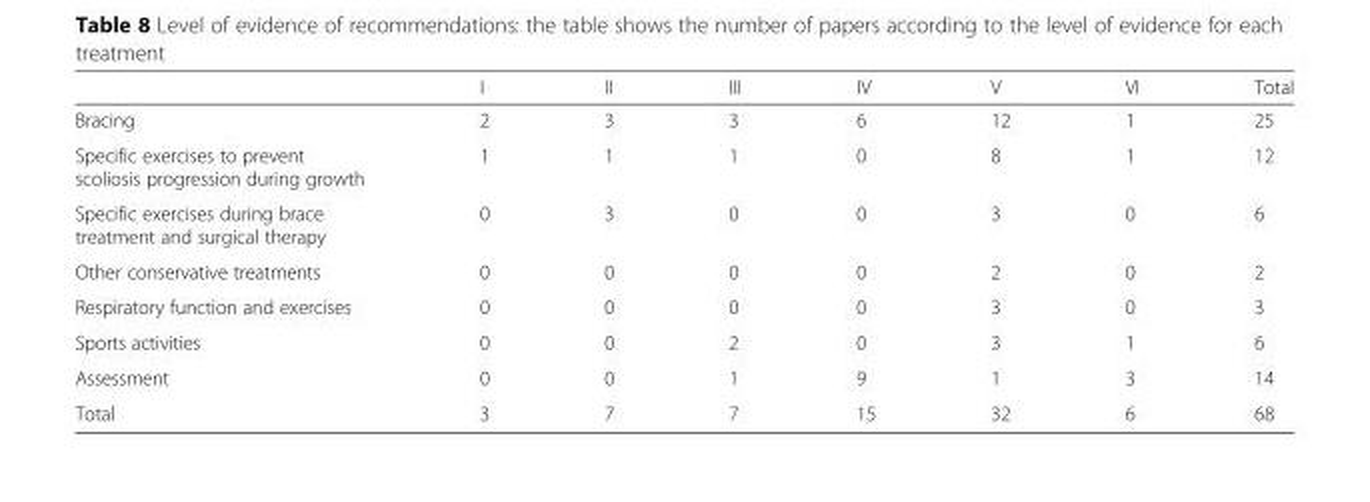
<table><thead><tr><td></td><td>I</td><td>II</td><td>III</td><td>IV</td><td>V</td><td>VI</td><td>Total</td></tr></thead><tbody><tr><td>Bracing</td><td>2</td><td>3</td><td>3</td><td>6</td><td>12</td><td>1</td><td>25</td></tr><tr><td>Specific exercises to prevent scoliosis progression during growth</td><td>1</td><td>1</td><td>1</td><td>0</td><td>8</td><td>1</td><td>12</td></tr><tr><td>Specific exercises during brace treatment and surgical therapy</td><td>0</td><td>3</td><td>0</td><td>0</td><td>3</td><td>0</td><td>6</td></tr><tr><td>Other conservative treatments</td><td>0</td><td>0</td><td>0</td><td>0</td><td>2</td><td>0</td><td>2</td></tr><tr><td>Respiratory function and exercises</td><td>0</td><td>0</td><td>0</td><td>0</td><td>3</td><td>0</td><td>3</td></tr><tr><td>Sports activities</td><td>0</td><td>0</td><td>2</td><td>0</td><td>3</td><td>1</td><td>6</td></tr><tr><td>Assessment</td><td>0</td><td>0</td><td>1</td><td>9</td><td>1</td><td>3</td><td>14</td></tr><tr><td>Total</td><td>3</td><td>7</td><td>7</td><td>15</td><td>32</td><td>6</td><td>68</td></tr></tbody></table>